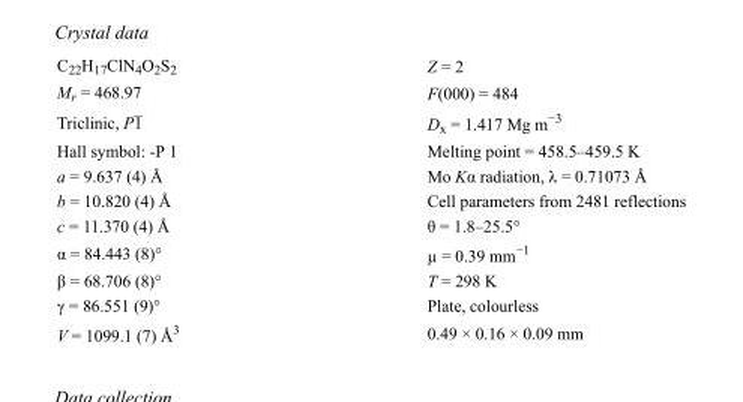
<table><tbody><tr><td>C<sub>22</sub>H<sub>17</sub>ClN<sub>4</sub>O<sub>2</sub>S<sub>2</sub></td><td>Z = 2</td></tr><tr><td>M<sub>r</sub> = 468.97</td><td>F(000) = 484</td></tr><tr><td>Triclinic, P1</td><td>D<sub>x</sub> = 1.417 Mg m<sup>−3</sup></td></tr><tr><td>Hall symbol: -P 1</td><td>Melting point = 458.5–459.5 K</td></tr><tr><td>a = 9.637 (4) Å</td><td>Mo Kα radiation, λ = 0.71073 Å</td></tr><tr><td>b = 10.820 (4) Å</td><td>Cell parameters from 2481 reflections</td></tr><tr><td>c = 11.370 (4) Å</td><td>θ = 1.8–25.5°</td></tr><tr><td>α = 84.443 (8)°</td><td>µ = 0.39 mm<sup>−1</sup></td></tr><tr><td>β = 68.706 (8)°</td><td>T = 298 K</td></tr><tr><td>γ = 86.551 (9)°</td><td>Plate, colourless</td></tr><tr><td>V = 1099.1 (7) Å<sup>3</sup></td><td>0.49 × 0.16 × 0.09 mm</td></tr></tbody></table>